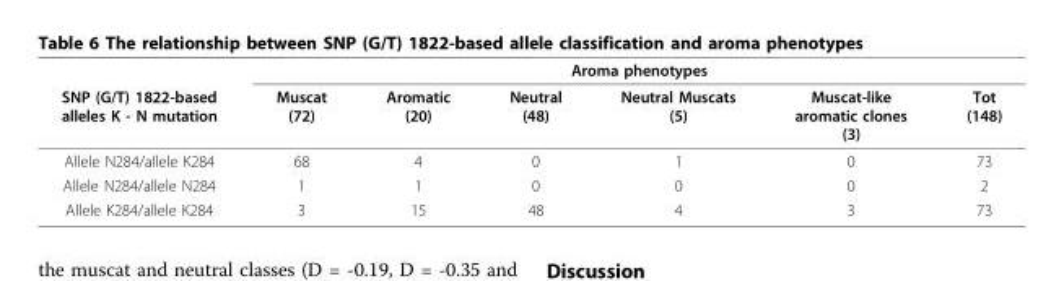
<table><thead><tr><td rowspan="2">SNP (G/T) 1822-based alleles K - N mutation</td><td colspan="6">Aroma phenotypes</td></tr><tr><td>Muscat (72)</td><td>Aromatic (20)</td><td>Neutral (48)</td><td>Neutral Muscats (5)</td><td>Muscat-like aromatic clones (3)</td><td>Tot (148)</td></tr></thead><tbody><tr><td>Allele N284/allele K284</td><td>68</td><td>4</td><td>0</td><td>1</td><td>0</td><td>73</td></tr><tr><td>Allele N284/allele N284</td><td>1</td><td>1</td><td>0</td><td>0</td><td>0</td><td>2</td></tr><tr><td>Allele K284/allele K284</td><td>3</td><td>15</td><td>48</td><td>4</td><td>3</td><td>73</td></tr></tbody></table>